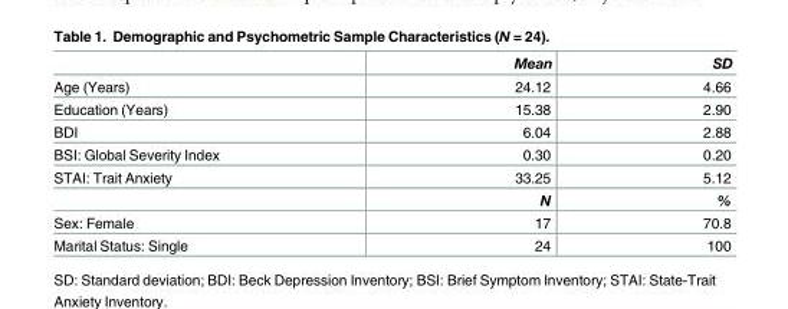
<table><thead><tr><td></td><td>Mean</td><td>SD</td></tr></thead><tbody><tr><td>Age (Years)</td><td>24.12</td><td>4.66</td></tr><tr><td>Education (Years)</td><td>15.38</td><td>2.90</td></tr><tr><td>BDI</td><td>6.04</td><td>2.88</td></tr><tr><td>BSI: Global Severity Index</td><td>0.30</td><td>0.20</td></tr><tr><td rowspan="2">STAI: Trait Anxiety</td><td>33.25</td><td>5.12</td></tr><tr><td>N</td><td>%</td></tr><tr><td>Sex: Female</td><td>17</td><td>70.8</td></tr><tr><td>Marital Status: Single</td><td>24</td><td>100</td></tr></tbody></table>